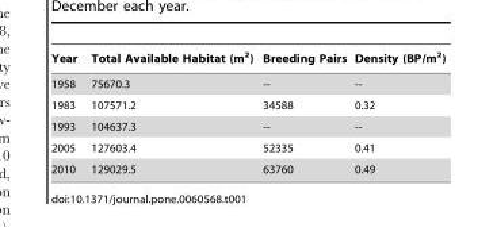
<table><thead><tr><td>Year</td><td>Total Available Habitat (m<sup>2</sup>)</td><td>Breeding Pairs</td><td>Density (BP/m<sup>2</sup>)</td></tr></thead><tbody><tr><td>1958</td><td>75670.3</td><td>--</td><td>--</td></tr><tr><td>1983</td><td>107571.2</td><td>34588</td><td>0.32</td></tr><tr><td>1993</td><td>104637.3</td><td>--</td><td>--</td></tr><tr><td>2005</td><td>127603.4</td><td>52335</td><td>0.41</td></tr><tr><td>2010</td><td>129029.5</td><td>63760</td><td>0.49</td></tr></tbody></table>